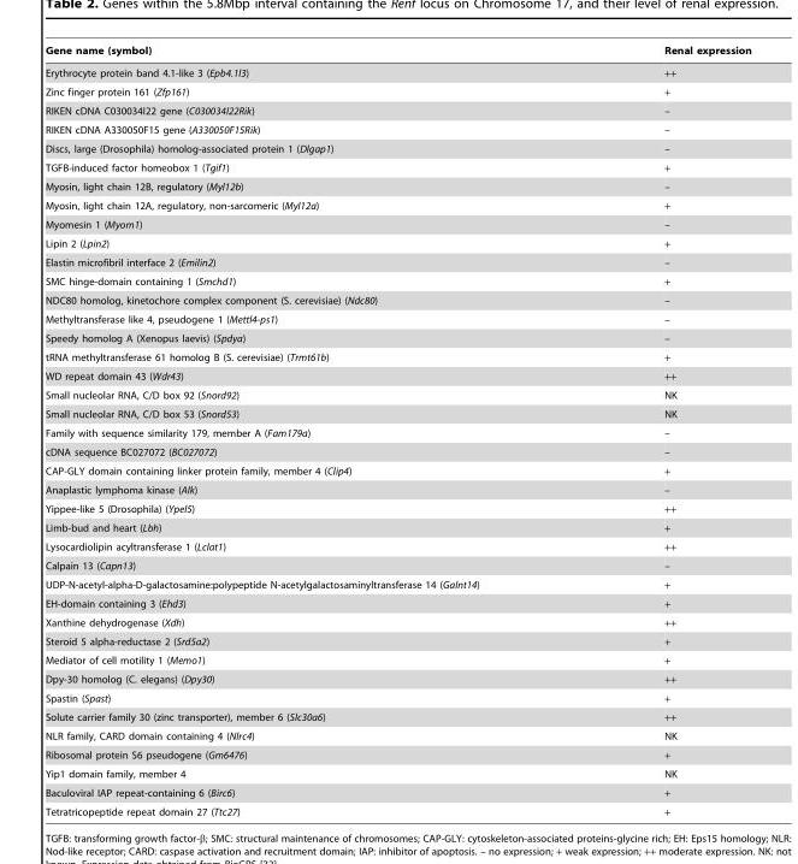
<table><thead><tr><td>Gene name (symbol)</td><td>Renal expression</td></tr></thead><tbody><tr><td>Erythrocyte protein band 4.1-like 3 (Epb4.1l3)</td><td>++</td></tr><tr><td>Zinc finger protein 161 (Zfp161)</td><td>+</td></tr><tr><td>RIKEN cDNA C030034I22 gene (C030034I22Rik)</td><td>–</td></tr><tr><td>RIKEN cDNA A330050F15 gene (A330050F15Rik)</td><td>–</td></tr><tr><td>Discs, large (Drosophila) homolog-associated protein 1 (Dlgap1)</td><td>–</td></tr><tr><td>TGFB-induced factor homeobox 1 (Tgif1)</td><td>+</td></tr><tr><td>Myosin, light chain 12B, regulatory (Myl12b)</td><td>–</td></tr><tr><td>Myosin, light chain 12A, regulatory, non-sarcomeric (Myl12a)</td><td>+</td></tr><tr><td>Myomesin 1 (Myom1)</td><td>–</td></tr><tr><td>Lipin 2 (Lpin2)</td><td>+</td></tr><tr><td>Elastin microfibril interface 2 (Emilin2)</td><td>–</td></tr><tr><td>SMC hinge-domain containing 1 (Smchd1)</td><td>+</td></tr><tr><td>NDC80 homolog, kinetochore complex component (S. cerevisiae) (Ndc80)</td><td>–</td></tr><tr><td>Methyltransferase like 4, pseudogene 1 (Mettl4-ps1)</td><td>–</td></tr><tr><td>Speedy homolog A (Xenopus laevis) (Spdya)</td><td>–</td></tr><tr><td>tRNA methyltransferase 61 homolog B (S. cerevisiae) (Trmt61b)</td><td>+</td></tr><tr><td>WD repeat domain 43 (Wdr43)</td><td>++</td></tr><tr><td>Small nucleolar RNA, C/D box 92 (Snord92)</td><td>NK</td></tr><tr><td>Small nucleolar RNA, C/D box 53 (Snord53)</td><td>NK</td></tr><tr><td>Family with sequence similarity 179, member A (Fam179a)</td><td>–</td></tr><tr><td>cDNA sequence BC027072 (BC027072)</td><td>–</td></tr><tr><td>CAP-GLY domain containing linker protein family, member 4 (Clip4)</td><td>+</td></tr><tr><td>Anaplastic lymphoma kinase (Alk)</td><td>–</td></tr><tr><td>Yippee-like 5 (Drosophila) (Ypel5)</td><td>++</td></tr><tr><td>Limb-bud and heart (Lbh)</td><td>+</td></tr><tr><td>Lysocardiolipin acyltransferase 1 (Lclat1)</td><td>++</td></tr><tr><td>Calpain 13 (Capn13)</td><td>–</td></tr><tr><td>UDP-N-acetyl-alpha-D-galactosamine:polypeptide N-acetylgalactosaminyltransferase 14 (Galnt14)</td><td>+</td></tr><tr><td>EH-domain containing 3 (Ehd3)</td><td>+</td></tr><tr><td>Xanthine dehydrogenase (Xdh)</td><td>++</td></tr><tr><td>Steroid 5 alpha-reductase 2 (Srd5a2)</td><td>+</td></tr><tr><td>Mediator of cell motility 1 (Memo1)</td><td>+</td></tr><tr><td>Dpy-30 homolog (C. elegans) (Dpy30)</td><td>++</td></tr><tr><td>Spastin (Spast)</td><td>+</td></tr><tr><td>Solute carrier family 30 (zinc transporter), member 6 (Slc30a6)</td><td>++</td></tr><tr><td>NLR family, CARD domain containing 4 (Nlrc4)</td><td>NK</td></tr><tr><td>Ribosomal protein S6 pseudogene (Gm6476)</td><td>+</td></tr><tr><td>Yip1 domain family, member 4</td><td>NK</td></tr><tr><td>Baculoviral IAP repeat-containing 6 (Birc6)</td><td>+</td></tr><tr><td>Tetratricopeptide repeat domain 27 (Ttc27)</td><td>+</td></tr></tbody></table>